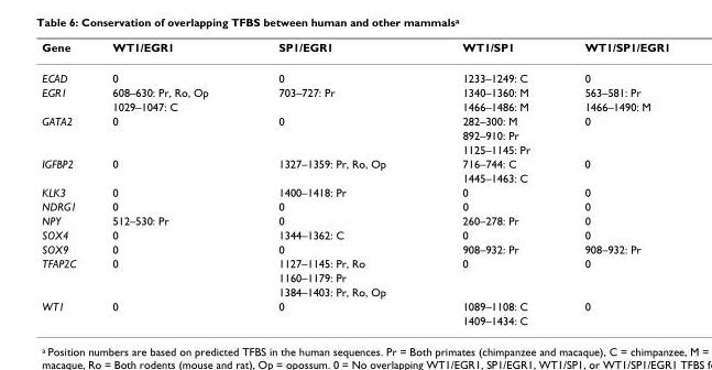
<table><thead><tr><td>Gene</td><td>WT1/EGR1</td><td>SP1/EGR1</td><td>WT1/SP1</td><td>WT1/SP1/EGR1</td></tr></thead><tbody><tr><td>ECAD</td><td>0</td><td>0</td><td>1233–1249: C</td><td>0</td></tr><tr><td rowspan="2">EGR1</td><td>608–630: Pr, Ro, Op</td><td>703–727: Pr</td><td>1340–1360: M</td><td>563–581: Pr</td></tr><tr><td>1029–1047: C</td><td></td><td>1466–1486: M</td><td>1466–1490: M</td></tr><tr><td rowspan="3">GATA2</td><td>0</td><td>0</td><td>282–300: M</td><td>0</td></tr><tr><td></td><td></td><td>892–910: Pr</td><td></td></tr><tr><td></td><td></td><td>1125–1145: Pr</td><td></td></tr><tr><td rowspan="2">IGFBP2</td><td>0</td><td>1327–1359: Pr, Ro, Op</td><td>716–744: C</td><td>0</td></tr><tr><td></td><td></td><td>1445–1463: C</td><td></td></tr><tr><td>KLK3</td><td>0</td><td>1400–1418: Pr</td><td>0</td><td>0</td></tr><tr><td>NDRG1</td><td>0</td><td>0</td><td>0</td><td>0</td></tr><tr><td>NPY</td><td>512–530: Pr</td><td>0</td><td>260–278: Pr</td><td>0</td></tr><tr><td>SOX4</td><td>0</td><td>1344–1362: C</td><td>0</td><td>0</td></tr><tr><td>SOX9</td><td>0</td><td>0</td><td>908–932: Pr</td><td>908–932: Pr</td></tr><tr><td rowspan="3">TFAP2C</td><td>0</td><td>1127–1145: Pr, Ro</td><td>0</td><td>0</td></tr><tr><td></td><td>1160–1179: Pr</td><td></td><td></td></tr><tr><td></td><td>1384–1403: Pr, Ro, Op</td><td></td><td></td></tr><tr><td rowspan="2">WT1</td><td>0</td><td>0</td><td>1089–1108: C</td><td>0</td></tr><tr><td></td><td></td><td>1409–1434: C</td><td></td></tr></tbody></table>